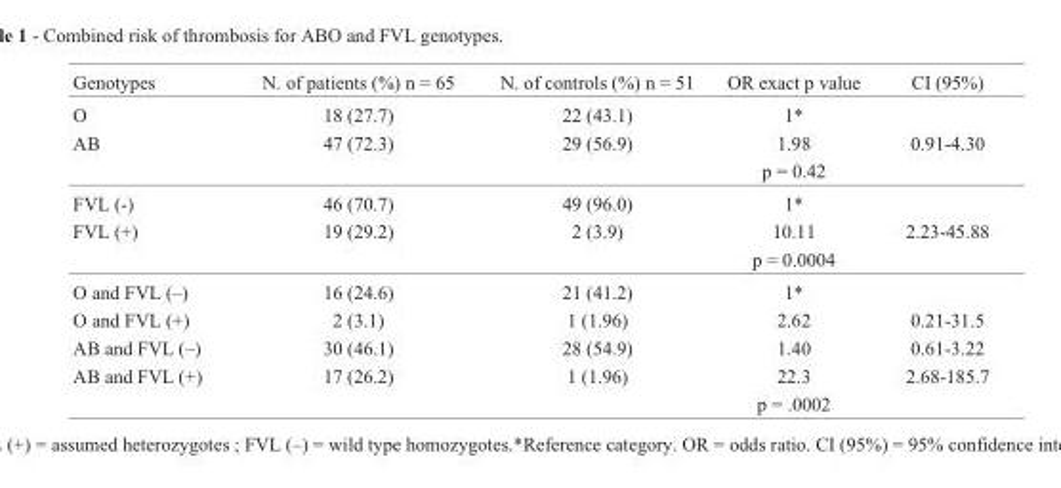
<table><thead><tr><td>Genotypes</td><td>N. of patients (%) n = 65</td><td>N. of controls (%) n = 51</td><td>OR exact p value</td><td>CI (95%)</td></tr></thead><tbody><tr><td>O</td><td>18 (27.7)</td><td>22 (43.1)</td><td>1*</td><td></td></tr><tr><td rowspan="2">AB</td><td>47 (72.3)</td><td>29 (56.9)</td><td>1.98</td><td>0.91-4.30</td></tr><tr><td></td><td></td><td>p = 0.42</td><td></td></tr><tr><td>FVL (-)</td><td>46 (70.7)</td><td>49 (96.0)</td><td>1*</td><td></td></tr><tr><td rowspan="2">FVL (+)</td><td>19 (29.2)</td><td>2 (3.9)</td><td>10.11</td><td>2.23-45.88</td></tr><tr><td></td><td></td><td>p = 0.0004</td><td></td></tr><tr><td>O and FVL (–)</td><td>16 (24.6)</td><td>21 (41.2)</td><td>1*</td><td></td></tr><tr><td>O and FVL (+)</td><td>2 (3.1)</td><td>1 (1.96)</td><td>2.62</td><td>0.21-31.5</td></tr><tr><td>AB and FVL (–)</td><td>30 (46.1)</td><td>28 (54.9)</td><td>1.40</td><td>0.61-3.22</td></tr><tr><td rowspan="2">AB and FVL (+)</td><td>17 (26.2)</td><td>1 (1.96)</td><td>22.3</td><td>2.68-185.7</td></tr><tr><td></td><td></td><td>p = .0002</td><td></td></tr></tbody></table>